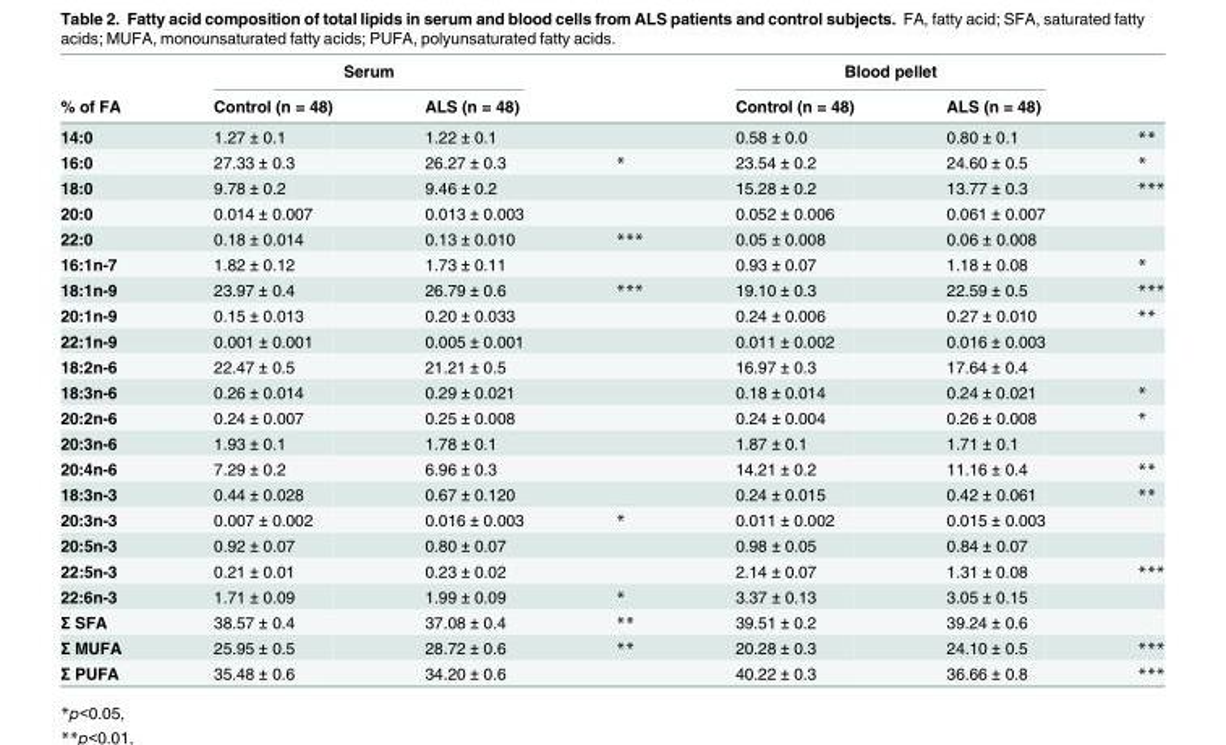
<table><thead><tr><td rowspan="2">% of FA</td><td colspan="2">Serum</td><td rowspan="2"></td><td colspan="2">Blood pellet</td><td rowspan="2"></td></tr><tr><td>Control (n = 48)</td><td>ALS (n = 48)</td><td>Control (n = 48)</td><td>ALS (n = 48)</td></tr></thead><tbody><tr><td>14:0</td><td>1.27 ± 0.1</td><td>1.22 ± 0.1</td><td></td><td>0.58 ± 0.0</td><td>0.80 ± 0.1</td><td>**</td></tr><tr><td>16:0</td><td>27.33 ± 0.3</td><td>26.27 ± 0.3</td><td>*</td><td>23.54 ± 0.2</td><td>24.60 ± 0.5</td><td>*</td></tr><tr><td>18:0</td><td>9.78 ± 0.2</td><td>9.46 ± 0.2</td><td></td><td>15.28 ± 0.2</td><td>13.77 ± 0.3</td><td>***</td></tr><tr><td>20:0</td><td>0.014 ± 0.007</td><td>0.013 ± 0.003</td><td></td><td>0.052 ± 0.006</td><td>0.061 ± 0.007</td><td></td></tr><tr><td>22:0</td><td>0.18 ± 0.014</td><td>0.13 ± 0.010</td><td>***</td><td>0.05 ± 0.008</td><td>0.06 ± 0.008</td><td></td></tr><tr><td>16:1n-7</td><td>1.82 ± 0.12</td><td>1.73 ± 0.11</td><td></td><td>0.93 ± 0.07</td><td>1.18 ± 0.08</td><td>*</td></tr><tr><td>18:1n-9</td><td>23.97 ± 0.4</td><td>26.79 ± 0.6</td><td>***</td><td>19.10 ± 0.3</td><td>22.59 ± 0.5</td><td>***</td></tr><tr><td>20:1n-9</td><td>0.15 ± 0.013</td><td>0.20 ± 0.033</td><td></td><td>0.24 ± 0.006</td><td>0.27 ± 0.010</td><td>**</td></tr><tr><td>22:1n-9</td><td>0.001 ± 0.001</td><td>0.005 ± 0.001</td><td></td><td>0.011 ± 0.002</td><td>0.016 ± 0.003</td><td></td></tr><tr><td>18:2n-6</td><td>22.47 ± 0.5</td><td>21.21 ± 0.5</td><td></td><td>16.97 ± 0.3</td><td>17.64 ± 0.4</td><td></td></tr><tr><td>18:3n-6</td><td>0.26 ± 0.014</td><td>0.29 ± 0.021</td><td></td><td>0.18 ± 0.014</td><td>0.24 ± 0.021</td><td>*</td></tr><tr><td>20:2n-6</td><td>0.24 ± 0.007</td><td>0.25 ± 0.008</td><td></td><td>0.24 ± 0.004</td><td>0.26 ± 0.008</td><td>*</td></tr><tr><td>20:3n-6</td><td>1.93 ± 0.1</td><td>1.78 ± 0.1</td><td></td><td>1.87 ± 0.1</td><td>1.71 ± 0.1</td><td></td></tr><tr><td>20:4n-6</td><td>7.29 ± 0.2</td><td>6.96 ± 0.3</td><td></td><td>14.21 ± 0.2</td><td>11.16 ± 0.4</td><td>**</td></tr><tr><td>18:3n-3</td><td>0.44 ± 0.028</td><td>0.67 ± 0.120</td><td></td><td>0.24 ± 0.015</td><td>0.42 ± 0.061</td><td>**</td></tr><tr><td>20:3n-3</td><td>0.007 ± 0.002</td><td>0.016 ± 0.003</td><td>*</td><td>0.011 ± 0.002</td><td>0.015 ± 0.003</td><td></td></tr><tr><td>20:5n-3</td><td>0.92 ± 0.07</td><td>0.80 ± 0.07</td><td></td><td>0.98 ± 0.05</td><td>0.84 ± 0.07</td><td></td></tr><tr><td>22:5n-3</td><td>0.21 ± 0.01</td><td>0.23 ± 0.02</td><td></td><td>2.14 ± 0.07</td><td>1.31 ± 0.08</td><td>***</td></tr><tr><td>22:6n-3</td><td>1.71 ± 0.09</td><td>1.99 ± 0.09</td><td>*</td><td>3.37 ± 0.13</td><td>3.05 ± 0.15</td><td></td></tr><tr><td>Σ SFA</td><td>38.57 ± 0.4</td><td>37.08 ± 0.4</td><td>**</td><td>39.51 ± 0.2</td><td>39.24 ± 0.6</td><td></td></tr><tr><td>Σ MUFA</td><td>25.95 ± 0.5</td><td>28.72 ± 0.6</td><td>**</td><td>20.28 ± 0.3</td><td>24.10 ± 0.5</td><td>***</td></tr><tr><td>Σ PUFA</td><td>35.48 ± 0.6</td><td>34.20 ± 0.6</td><td></td><td>40.22 ± 0.3</td><td>36.66 ± 0.8</td><td>***</td></tr></tbody></table>